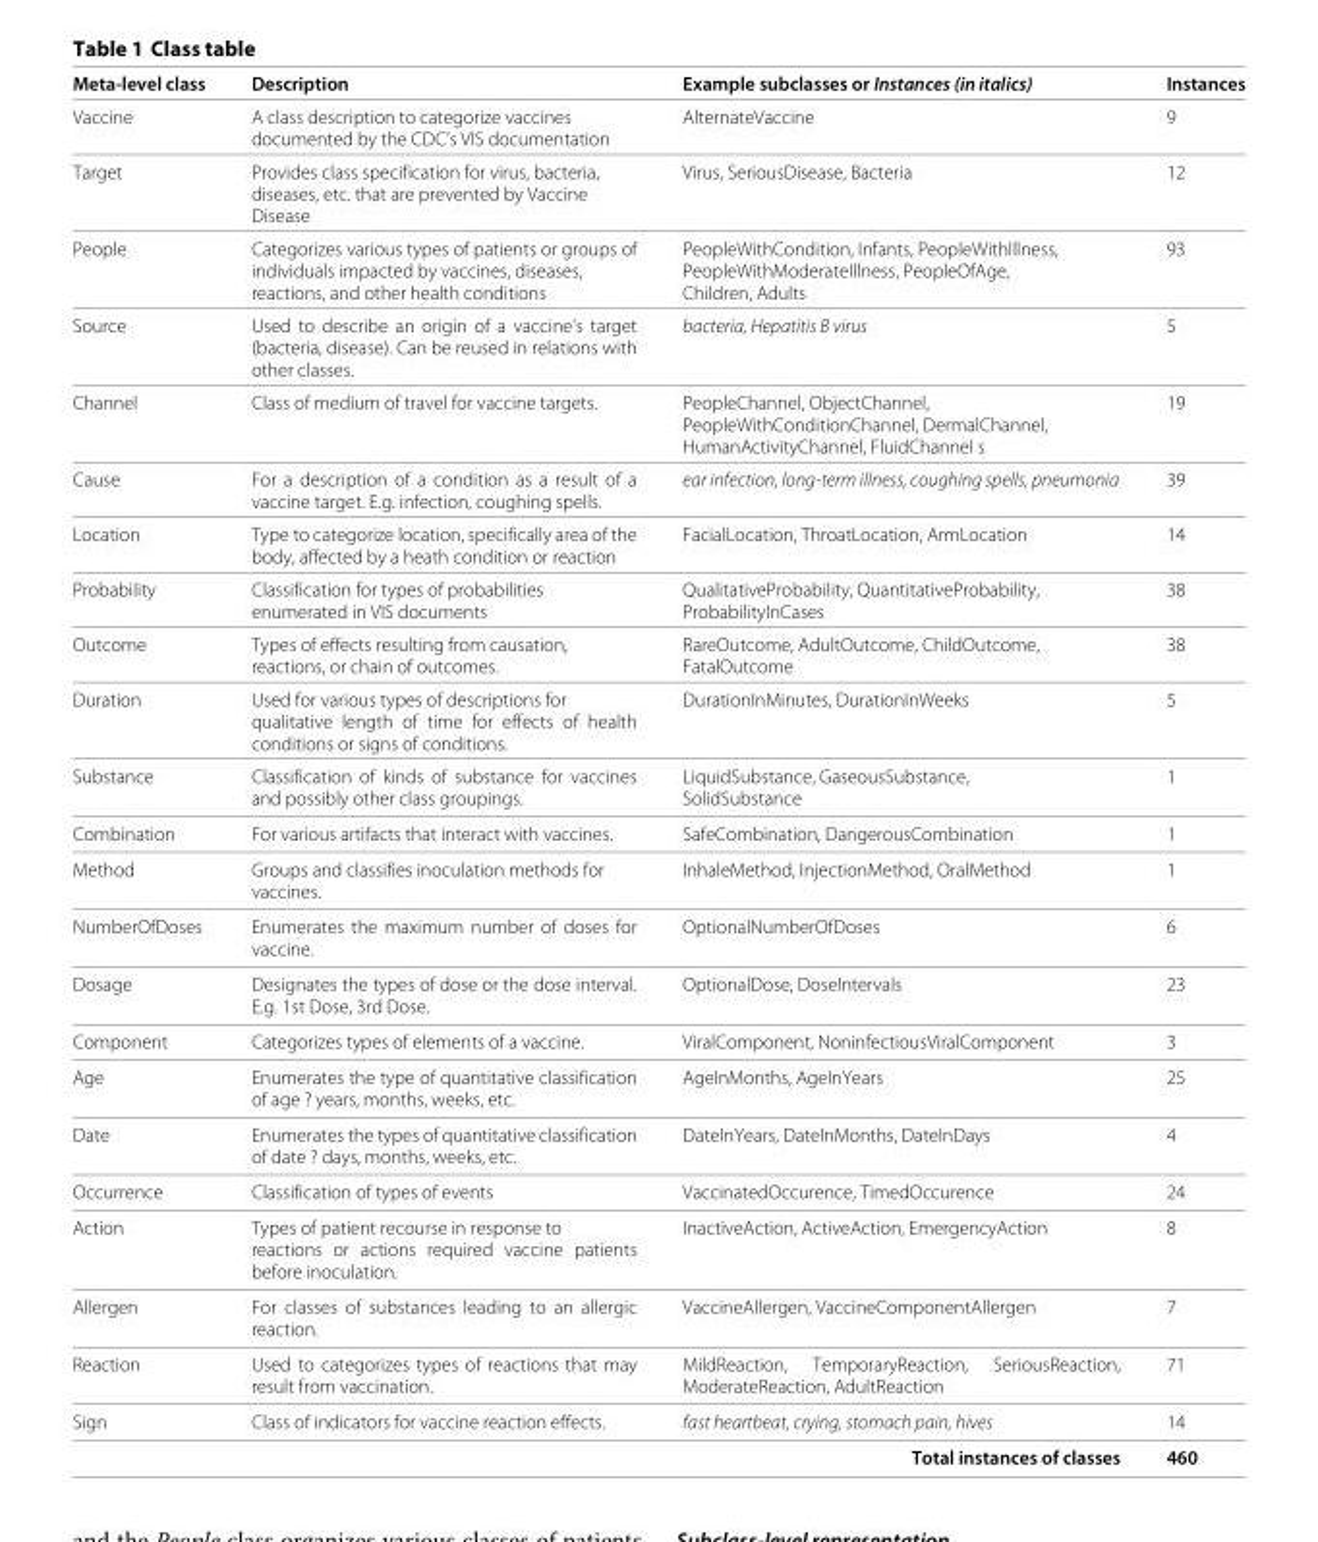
<table><thead><tr><td>Meta-level class</td><td>Description</td><td>Example subclasses or Instances (in italics)</td><td>Instances</td></tr></thead><tbody><tr><td>Vaccine</td><td>A class description to categorize vaccines documented by the CDC’s VIS documentation</td><td>AlternateVaccine</td><td>9</td></tr><tr><td>Target</td><td>Provides class specification for virus, bacteria, diseases, etc. that are prevented by Vaccine Disease</td><td>Virus, SeriousDisease, Bacteria</td><td>12</td></tr><tr><td>People</td><td>Categorizes various types of patients or groups of individuals impacted by vaccines, diseases, reactions, and other health conditions</td><td>PeopleWithCondition, Infants, PeopleWithIllness, PeopleWithModerateIllness, PeopleOfAge, Children, Adults</td><td>93</td></tr><tr><td>Source</td><td>Used to describe an origin of a vaccine’s target (bacteria, disease). Can be reused in relations with other classes.</td><td>bacteria, Hepatitis B virus</td><td>5</td></tr><tr><td>Channel</td><td>Class of medium of travel for vaccine targets.</td><td>PeopleChannel, ObjectChannel, PeopleWithConditionChannel, DermalChannel, HumanActivityChannel, FluidChannel s</td><td>19</td></tr><tr><td>Cause</td><td>For a description of a condition as a result of a vaccine target. E.g. infection, coughing spells.</td><td>ear infection, long-term illness, coughing spells, pneumonia</td><td>39</td></tr><tr><td>Location</td><td>Type to categorize location, specifically area of the body, affected by a heath condition or reaction</td><td>FacialLocation, ThroatLocation, ArmLocation</td><td>14</td></tr><tr><td>Probability</td><td>Classification for types of probabilities enumerated in VIS documents</td><td>QualitativeProbability, QuantitativeProbability, ProbabilityInCases</td><td>38</td></tr><tr><td>Outcome</td><td>Types of effects resulting from causation, reactions, or chain of outcomes.</td><td>RareOutcome, AdultOutcome, ChildOutcome, FatalOutcome</td><td>38</td></tr><tr><td>Duration</td><td>Used for various types of descriptions for qualitative length of time for effects of health conditions or signs of conditions.</td><td>DurationInMinutes, DurationInWeeks</td><td>5</td></tr><tr><td>Substance</td><td>Classification of kinds of substance for vaccines and possibly other class groupings.</td><td>LiquidSubstance, GaseousSubstance, SolidSubstance</td><td>1</td></tr><tr><td>Combination</td><td>For various artifacts that interact with vaccines.</td><td>SafeCombination, DangerousCombination</td><td>1</td></tr><tr><td>Method</td><td>Groups and classifies inoculation methods for vaccines.</td><td>InhaleMethod, InjectionMethod, OralMethod</td><td>1</td></tr><tr><td>NumberOfDoses</td><td>Enumerates the maximum number of doses for vaccine.</td><td>OptionalNumberOfDoses</td><td>6</td></tr><tr><td>Dosage</td><td>Designates the types of dose or the dose interval. E.g. 1st Dose, 3rd Dose.</td><td>OptionalDose, DoseIntervals</td><td>23</td></tr><tr><td>Component</td><td>Categorizes types of elements of a vaccine.</td><td>ViralComponent, NoninfectiousViralComponent</td><td>3</td></tr><tr><td>Age</td><td>Enumerates the type of quantitative classification of age ? years, months, weeks, etc.</td><td>AgeInMonths, AgeInYears</td><td>25</td></tr><tr><td>Date</td><td>Enumerates the types of quantitative classification of date ? days, months, weeks, etc.</td><td>DateInYears, DateInMonths, DateInDays</td><td>4</td></tr><tr><td>Occurrence</td><td>Classification of types of events</td><td>VaccinatedOccurence, TimedOccurence</td><td>24</td></tr><tr><td>Action</td><td>Types of patient recourse in response to reactions or actions required vaccine patients before inoculation.</td><td>InactiveAction, ActiveAction, EmergencyAction</td><td>8</td></tr><tr><td>Allergen</td><td>For classes of substances leading to an allergic reaction.</td><td>VaccineAllergen, VaccineComponentAllergen</td><td>7</td></tr><tr><td>Reaction</td><td>Used to categorizes types of reactions that may result from vaccination.</td><td>MildReaction, TemporaryReaction, SeriousReaction, ModerateReaction, AdultReaction</td><td>71</td></tr><tr><td>Sign</td><td>Class of indicators for vaccine reaction effects.</td><td>fast heartbeat, crying, stomach pain, hives</td><td>14</td></tr><tr><td colspan="3">Total instances of classes</td><td>460</td></tr></tbody></table>